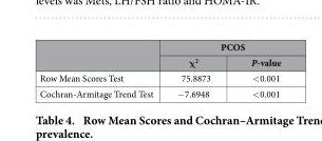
<table><thead><tr><td rowspan="2"></td><td colspan="2">PCOS</td></tr><tr><td>χ<sup>2</sup></td><td>P-value</td></tr></thead><tbody><tr><td>Row Mean Scores Test</td><td>75.8873</td><td>&lt; 0.001</td></tr><tr><td>Cochran-Armitage Trend Test</td><td>− 7.6948</td><td>&lt; 0.001</td></tr></tbody></table>